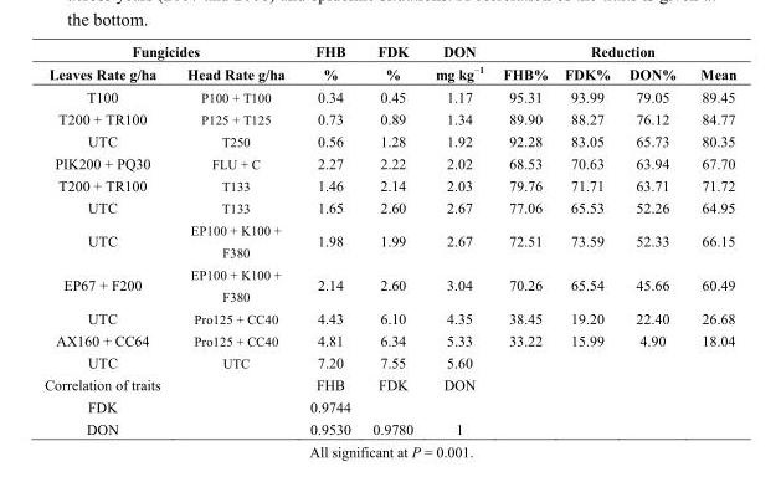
<table><thead><tr><td colspan="2">Fungicides</td><td rowspan="2">FHB %</td><td rowspan="2">FDK %</td><td rowspan="2">DON mg kg−1</td><td colspan="4">Reduction</td></tr><tr><td>Leaves Rate g/ha</td><td>Head Rate g/ha</td><td>FHB%</td><td>FDK%</td><td>DON%</td><td>Mean</td></tr></thead><tbody><tr><td>T100</td><td>P100 + T100</td><td>0.34</td><td>0.45</td><td>1.17</td><td>95.31</td><td>93.99</td><td>79.05</td><td>89.45</td></tr><tr><td>T200 + TR100</td><td>P125 + T125</td><td>0.73</td><td>0.89</td><td>1.34</td><td>89.90</td><td>88.27</td><td>76.12</td><td>84.77</td></tr><tr><td>UTC</td><td>T250</td><td>0.56</td><td>1.28</td><td>1.92</td><td>92.28</td><td>83.05</td><td>65.73</td><td>80.35</td></tr><tr><td>PIK200 + PQ30</td><td>FLU + C</td><td>2.27</td><td>2.22</td><td>2.02</td><td>68.53</td><td>70.63</td><td>63.94</td><td>67.70</td></tr><tr><td>T200 + TR100</td><td>T133</td><td>1.46</td><td>2.14</td><td>2.03</td><td>79.76</td><td>71.71</td><td>63.71</td><td>71.72</td></tr><tr><td>UTC</td><td>T133</td><td>1.65</td><td>2.60</td><td>2.67</td><td>77.06</td><td>65.53</td><td>52.26</td><td>64.95</td></tr><tr><td>UTC</td><td>EP100 + K100 + F380</td><td>1.98</td><td>1.99</td><td>2.67</td><td>72.51</td><td>73.59</td><td>52.33</td><td>66.15</td></tr><tr><td>EP67 + F200</td><td>EP100 + K100 + F380</td><td>2.14</td><td>2.60</td><td>3.04</td><td>70.26</td><td>65.54</td><td>45.66</td><td>60.49</td></tr><tr><td>UTC</td><td>Pro125 + CC40</td><td>4.43</td><td>6.10</td><td>4.35</td><td>38.45</td><td>19.20</td><td>22.40</td><td>26.68</td></tr><tr><td>AX160 + CC64</td><td>Pro125 + CC40</td><td>4.81</td><td>6.34</td><td>5.33</td><td>33.22</td><td>15.99</td><td>4.90</td><td>18.04</td></tr><tr><td>UTC</td><td>UTC</td><td>7.20</td><td>7.55</td><td>5.60</td><td></td><td></td><td></td><td></td></tr><tr><td>Correlation of traits</td><td></td><td>FHB</td><td>FDK</td><td>DON</td><td></td><td></td><td></td><td></td></tr><tr><td>FDK</td><td></td><td>0.9744</td><td></td><td></td><td></td><td></td><td></td><td></td></tr><tr><td>DON</td><td></td><td>0.9530</td><td>0.9780</td><td>1</td><td></td><td></td><td></td><td></td></tr></tbody></table>